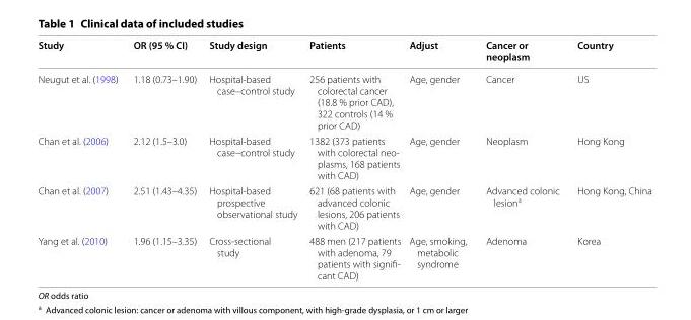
<table><thead><tr><td>Study</td><td>OR (95 % CI)</td><td>Study design</td><td>Patients</td><td>Adjust</td><td>Cancer or neoplasm</td><td>Country</td></tr></thead><tbody><tr><td>Neugut et al. (1998)</td><td>1.18 (0.73–1.90)</td><td>Hospital-based case–control study</td><td>256 patients with colorectal cancer (18.8 % prior CAD), 322 controls (14 % prior CAD)</td><td>Age, gender</td><td>Cancer</td><td>US</td></tr><tr><td>Chan et al. (2006)</td><td>2.12 (1.5–3.0)</td><td>Hospital-based case–control study</td><td>1382 (373 patients with colorectal neo- plasms, 168 patients with CAD)</td><td>Age, gender</td><td>Neoplasm</td><td>Hong Kong</td></tr><tr><td>Chan et al. (2007)</td><td>2.51 (1.43–4.35)</td><td>Hospital-based prospective observational study</td><td>621 (68 patients with advanced colonic lesions, 206 patients with CAD)</td><td>Age, gender</td><td>Advanced colonic lesion<sup>a</sup></td><td>Hong Kong, China</td></tr><tr><td>Yang et al. (2010)</td><td>1.96 (1.15–3.35)</td><td>Cross-sectional study</td><td>488 men (217 patients with adenoma, 79 patients with signifi- cant CAD)</td><td>Age, smoking, metabolic syndrome</td><td>Adenoma</td><td>Korea</td></tr></tbody></table>